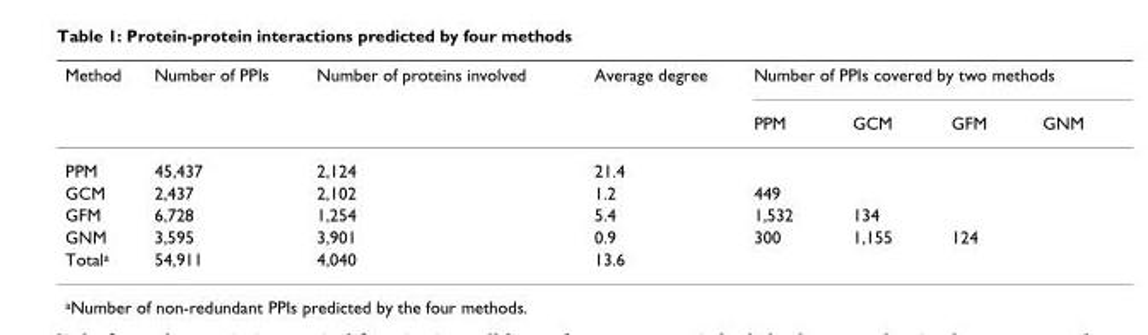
<table><thead><tr><td rowspan="2">Method</td><td rowspan="2">Number of PPIs</td><td rowspan="2">Number of proteins involved</td><td rowspan="2">Average degree</td><td colspan="4">Number of PPIs covered by two methods</td></tr><tr><td>PPM</td><td>GCM</td><td>GFM</td><td>GNM</td></tr></thead><tbody><tr><td>PPM</td><td>45,437</td><td>2,124</td><td>21.4</td><td></td><td></td><td></td><td></td></tr><tr><td>GCM</td><td>2,437</td><td>2,102</td><td>1.2</td><td>449</td><td></td><td></td><td></td></tr><tr><td>GFM</td><td>6,728</td><td>1,254</td><td>5.4</td><td>1,532</td><td>134</td><td></td><td></td></tr><tr><td>GNM</td><td>3,595</td><td>3,901</td><td>0.9</td><td>300</td><td>1,155</td><td>124</td><td></td></tr><tr><td>Total<sup>a</sup></td><td>54,911</td><td>4,040</td><td>13.6</td><td></td><td></td><td></td><td></td></tr></tbody></table>